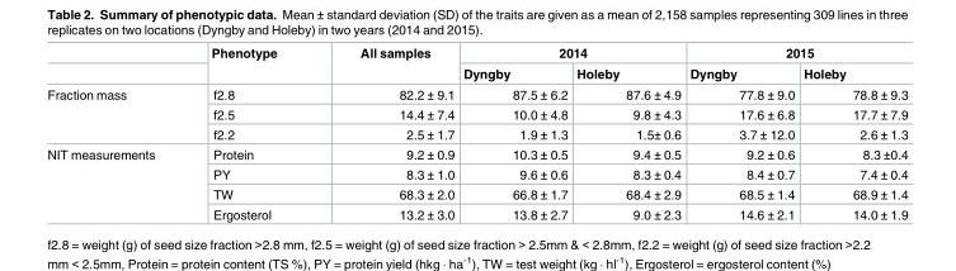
<table><thead><tr><td rowspan="2"></td><td rowspan="2">Phenotype</td><td rowspan="2">All samples</td><td colspan="2">2014</td><td colspan="2">2015</td></tr><tr><td>Dyngby</td><td>Holeby</td><td>Dyngby</td><td>Holeby</td></tr></thead><tbody><tr><td rowspan="3">Fraction mass</td><td>f2.8</td><td>82.2 ± 9.1</td><td>87.5 ± 6.2</td><td>87.6 ± 4.9</td><td>77.8 ± 9.0</td><td>78.8 ± 9.3</td></tr><tr><td>f2.5</td><td>14.4 ± 7.4</td><td>10.0 ± 4.8</td><td>9.8 ± 4.3</td><td>17.6 ± 6.8</td><td>17.7 ± 7.9</td></tr><tr><td>f2.2</td><td>2.5 ± 1.7</td><td>1.9 ± 1.3</td><td>1.5± 0.6</td><td>3.7 ± 12.0</td><td>2.6 ± 1.3</td></tr><tr><td rowspan="4">NIT measurements</td><td>Protein</td><td>9.2 ± 0.9</td><td>10.3 ± 0.5</td><td>9.4 ± 0.5</td><td>9.2 ± 0.6</td><td>8.3 ±0.4</td></tr><tr><td>PY</td><td>8.3 ± 1.0</td><td>9.6 ± 0.6</td><td>8.3 ± 0.4</td><td>8.4 ± 0.7</td><td>7.4 ± 0.4</td></tr><tr><td>TW</td><td>68.3 ± 2.0</td><td>66.8 ± 1.7</td><td>68.4 ± 2.9</td><td>68.5 ± 1.4</td><td>68.9 ± 1.4</td></tr><tr><td>Ergosterol</td><td>13.2 ± 3.0</td><td>13.8 ± 2.7</td><td>9.0 ± 2.3</td><td>14.6 ± 2.1</td><td>14.0 ± 1.9</td></tr></tbody></table>